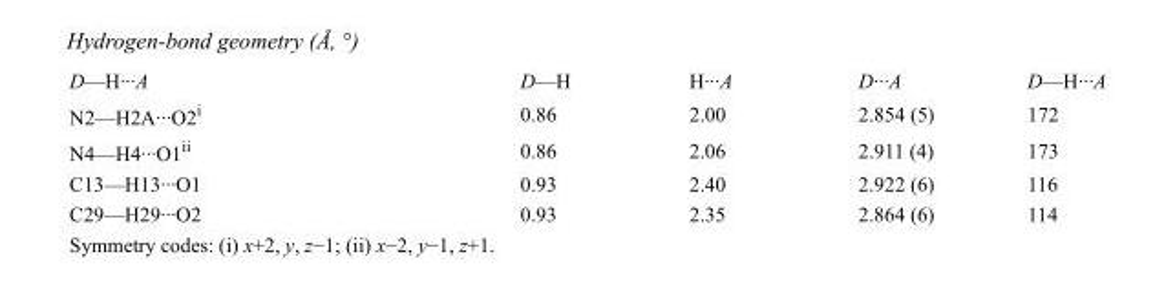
<table><tbody><tr><td>D—H···A</td><td>D—H</td><td>H···A</td><td>D···A</td><td>D—H···A</td></tr><tr><td>N2—H2A···O2<sup>i</sup></td><td>0.86</td><td>2.00</td><td>2.854 (5)</td><td>172</td></tr><tr><td>N4—H4···O1<sup>ii</sup></td><td>0.86</td><td>2.06</td><td>2.911 (4)</td><td>173</td></tr><tr><td>C13—H13···O1</td><td>0.93</td><td>2.40</td><td>2.922 (6)</td><td>116</td></tr><tr><td>C29—H29···O2</td><td>0.93</td><td>2.35</td><td>2.864 (6)</td><td>114</td></tr></tbody></table>